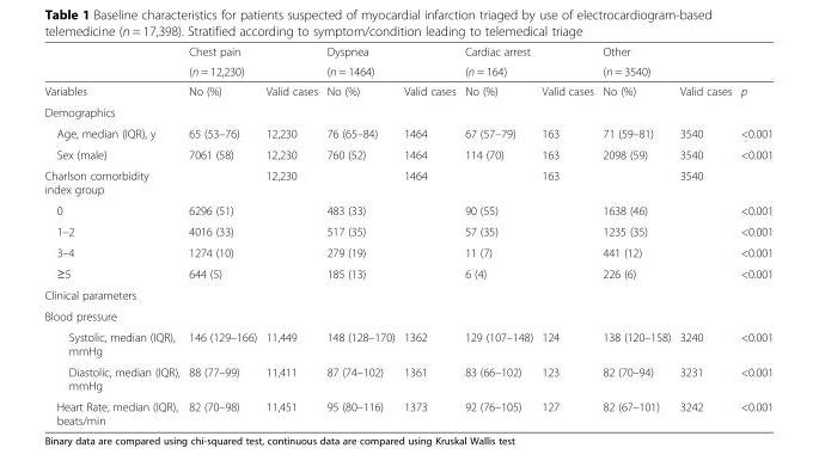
<table><thead><tr><td rowspan="2"></td><td rowspan="2">Chest pain (n = 12,230)</td><td rowspan="2"></td><td rowspan="2">Dyspnea (n = 1464)</td><td rowspan="2"></td><td rowspan="2">Cardiac arrest (n = 164)</td><td rowspan="2"></td><td rowspan="2">Other (n = 3540)</td><td rowspan="2"></td><td rowspan="2"></td></tr><tr></tr></thead><tbody><tr><td>Variables</td><td>No (%)</td><td>Valid cases</td><td>No (%)</td><td>Valid cases</td><td>No (%)</td><td>Valid cases</td><td>No (%)</td><td>Valid cases</td><td>p</td></tr><tr><td colspan="10">Demographics</td></tr><tr><td>Age, median (IQR), y</td><td>65 (53–76)</td><td>12,230</td><td>76 (65–84)</td><td>1464</td><td>67 (57–79)</td><td>163</td><td>71 (59–81)</td><td>3540</td><td>&lt;0.001</td></tr><tr><td>Sex (male)</td><td>7061 (58)</td><td>12,230</td><td>760 (52)</td><td>1464</td><td>114 (70)</td><td>163</td><td>2098 (59)</td><td>3540</td><td>&lt;0.001</td></tr><tr><td>Charlson comorbidity index group</td><td></td><td>12,230</td><td></td><td>1464</td><td></td><td>163</td><td></td><td>3540</td><td></td></tr><tr><td>0</td><td>6296 (51)</td><td></td><td>483 (33)</td><td></td><td>90 (55)</td><td></td><td>1638 (46)</td><td></td><td>&lt;0.001</td></tr><tr><td>1–2</td><td>4016 (33)</td><td></td><td>517 (35)</td><td></td><td>57 (35)</td><td></td><td>1235 (35)</td><td></td><td>&lt;0.001</td></tr><tr><td>3–4</td><td>1274 (10)</td><td></td><td>279 (19)</td><td></td><td>11 (7)</td><td></td><td>441 (12)</td><td></td><td>&lt;0.001</td></tr><tr><td>≥5</td><td>644 (5)</td><td></td><td>185 (13)</td><td></td><td>6 (4)</td><td></td><td>226 (6)</td><td></td><td>&lt;0.001</td></tr><tr><td colspan="10">Clinical parameters</td></tr><tr><td colspan="10">Blood pressure</td></tr><tr><td>Systolic, median (IQR), mmHg</td><td>146 (129–166)</td><td>11,449</td><td>148 (128–170)</td><td>1362</td><td>129 (107–148)</td><td>124</td><td>138 (120–158)</td><td>3240</td><td>&lt;0.001</td></tr><tr><td>Diastolic, median (IQR), mmHg</td><td>88 (77–99)</td><td>11,411</td><td>87 (74–102)</td><td>1361</td><td>83 (66–102)</td><td>123</td><td>82 (70–94)</td><td>3231</td><td>&lt;0.001</td></tr><tr><td>Heart Rate, median (IQR), beats/min</td><td>82 (70–98)</td><td>11,451</td><td>95 (80–116)</td><td>1373</td><td>92 (76–105)</td><td>127</td><td>82 (67–101)</td><td>3242</td><td>&lt;0.001</td></tr></tbody></table>